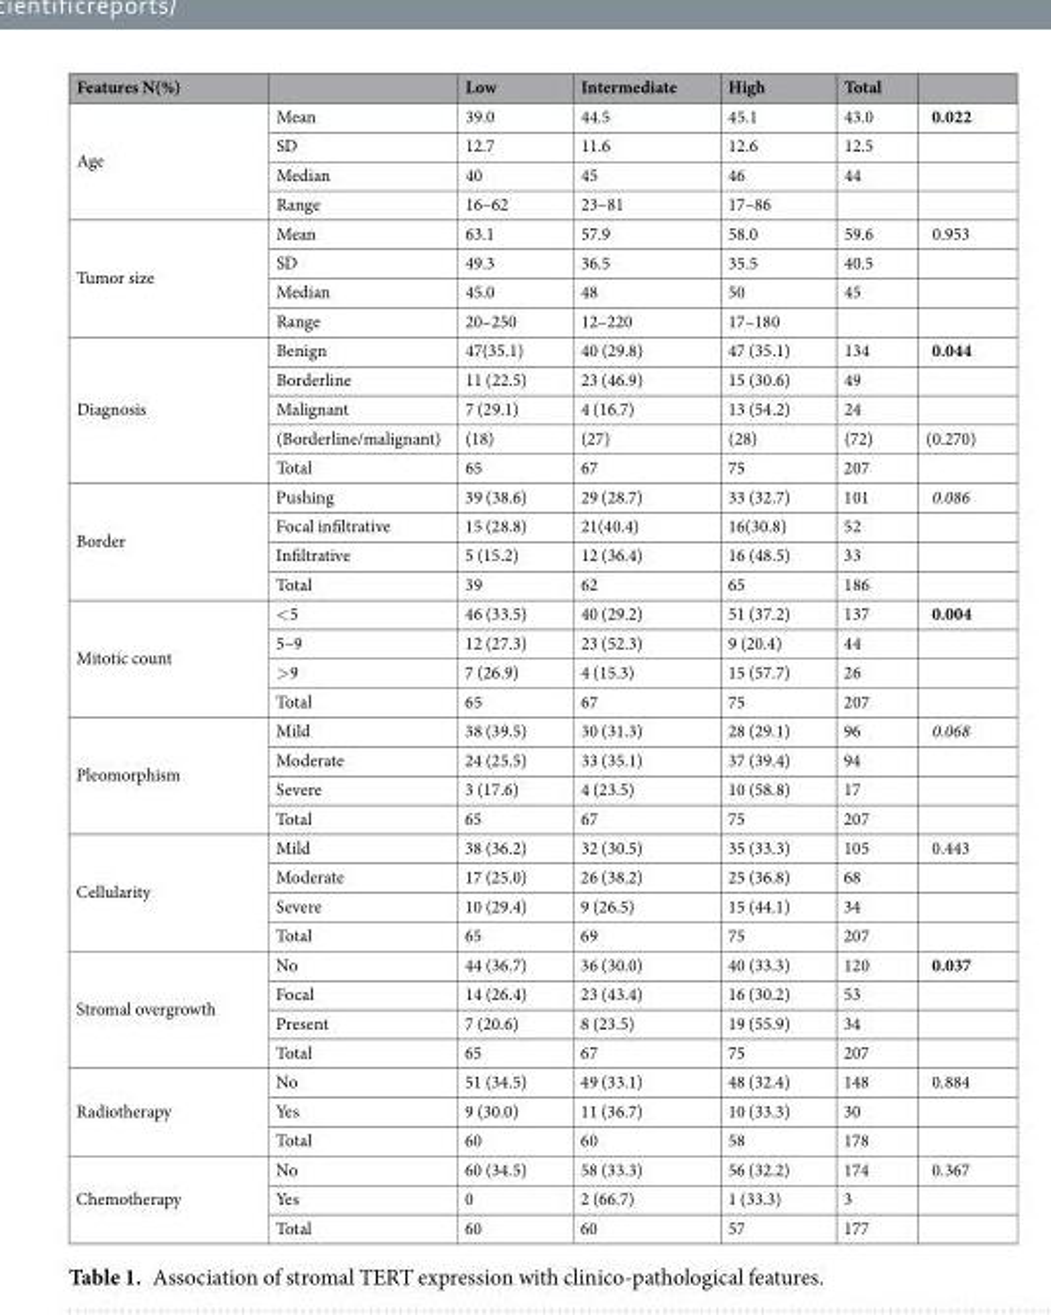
<table><thead><tr><td>Features N(%)</td><td></td><td>Low</td><td>Intermediate</td><td>High</td><td>Total</td><td></td></tr></thead><tbody><tr><td rowspan="4">Age</td><td>Mean</td><td>39.0</td><td>44.5</td><td>45.1</td><td>43.0</td><td>0.022</td></tr><tr><td>SD</td><td>12.7</td><td>11.6</td><td>12.6</td><td>12.5</td><td></td></tr><tr><td>Median</td><td>40</td><td>45</td><td>46</td><td>44</td><td></td></tr><tr><td>Range</td><td>16–62</td><td>23–81</td><td>17–86</td><td></td><td></td></tr><tr><td rowspan="4">Tumor size</td><td>Mean</td><td>63.1</td><td>57.9</td><td>58.0</td><td>59.6</td><td>0.953</td></tr><tr><td>SD</td><td>49.3</td><td>36.5</td><td>35.5</td><td>40.5</td><td></td></tr><tr><td>Median</td><td>45.0</td><td>48</td><td>50</td><td>45</td><td></td></tr><tr><td>Range</td><td>20–250</td><td>12–220</td><td>17–180</td><td></td><td></td></tr><tr><td rowspan="5">Diagnosis</td><td>Benign</td><td>47(35.1)</td><td>40 (29.8)</td><td>47 (35.1)</td><td>134</td><td>0.044</td></tr><tr><td>Borderline</td><td>11 (22.5)</td><td>23 (46.9)</td><td>15 (30.6)</td><td>49</td><td></td></tr><tr><td>Malignant</td><td>7 (29.1)</td><td>4 (16.7)</td><td>13 (54.2)</td><td>24</td><td></td></tr><tr><td>(Borderline/malignant)</td><td>(18)</td><td>(27)</td><td>(28)</td><td>(72)</td><td>(0.270)</td></tr><tr><td>Total</td><td>65</td><td>67</td><td>75</td><td>207</td><td></td></tr><tr><td rowspan="4">Border</td><td>Pushing</td><td>39 (38.6)</td><td>29 (28.7)</td><td>33 (32.7)</td><td>101</td><td>0.086</td></tr><tr><td>Focal infiltrative</td><td>15 (28.8)</td><td>21(40.4)</td><td>16(30.8)</td><td>52</td><td></td></tr><tr><td>Infiltrative</td><td>5 (15.2)</td><td>12 (36.4)</td><td>16 (48.5)</td><td>33</td><td></td></tr><tr><td>Total</td><td>39</td><td>62</td><td>65</td><td>186</td><td></td></tr><tr><td rowspan="4">Mitotic count</td><td>&lt;5</td><td>46 (33.5)</td><td>40 (29.2)</td><td>51 (37.2)</td><td>137</td><td>0.004</td></tr><tr><td>5–9</td><td>12 (27.3)</td><td>23 (52.3)</td><td>9 (20.4)</td><td>44</td><td></td></tr><tr><td>&gt;9</td><td>7 (26.9)</td><td>4 (15.3)</td><td>15 (57.7)</td><td>26</td><td></td></tr><tr><td>Total</td><td>65</td><td>67</td><td>75</td><td>207</td><td></td></tr><tr><td rowspan="4">Pleomorphism</td><td>Mild</td><td>38 (39.5)</td><td>30 (31.3)</td><td>28 (29.1)</td><td>96</td><td>0.068</td></tr><tr><td>Moderate</td><td>24 (25.5)</td><td>33 (35.1)</td><td>37 (39.4)</td><td>94</td><td></td></tr><tr><td>Severe</td><td>3 (17.6)</td><td>4 (23.5)</td><td>10 (58.8)</td><td>17</td><td></td></tr><tr><td>Total</td><td>65</td><td>67</td><td>75</td><td>207</td><td></td></tr><tr><td rowspan="4">Cellularity</td><td>Mild</td><td>38 (36.2)</td><td>32 (30.5)</td><td>35 (33.3)</td><td>105</td><td>0.443</td></tr><tr><td>Moderate</td><td>17 (25.0)</td><td>26 (38.2)</td><td>25 (36.8)</td><td>68</td><td></td></tr><tr><td>Severe</td><td>10 (29.4)</td><td>9 (26.5)</td><td>15 (44.1)</td><td>34</td><td></td></tr><tr><td>Total</td><td>65</td><td>69</td><td>75</td><td>207</td><td></td></tr><tr><td rowspan="4">Stromal overgrowth</td><td>No</td><td>44 (36.7)</td><td>36 (30.0)</td><td>40 (33.3)</td><td>120</td><td>0.037</td></tr><tr><td>Focal</td><td>14 (26.4)</td><td>23 (43.4)</td><td>16 (30.2)</td><td>53</td><td></td></tr><tr><td>Present</td><td>7 (20.6)</td><td>8 (23.5)</td><td>19 (55.9)</td><td>34</td><td></td></tr><tr><td>Total</td><td>65</td><td>67</td><td>75</td><td>207</td><td></td></tr><tr><td rowspan="3">Radiotherapy</td><td>No</td><td>51 (34.5)</td><td>49 (33.1)</td><td>48 (32.4)</td><td>148</td><td>0.884</td></tr><tr><td>Yes</td><td>9 (30.0)</td><td>11 (36.7)</td><td>10 (33.3)</td><td>30</td><td></td></tr><tr><td>Total</td><td>60</td><td>60</td><td>58</td><td>178</td><td></td></tr><tr><td rowspan="3">Chemotherapy</td><td>No</td><td>60 (34.5)</td><td>58 (33.3)</td><td>56 (32.2)</td><td>174</td><td>0.367</td></tr><tr><td>Yes</td><td>0</td><td>2 (66.7)</td><td>1 (33.3)</td><td>3</td><td></td></tr><tr><td>Total</td><td>60</td><td>60</td><td>57</td><td>177</td><td></td></tr></tbody></table>